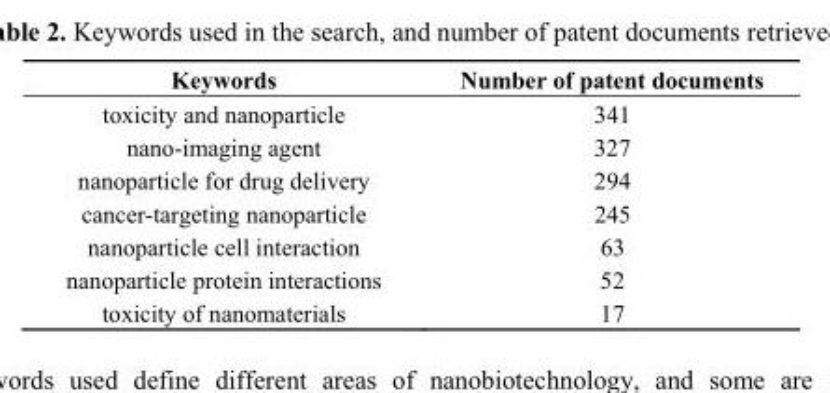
<table><thead><tr><td>Keywords</td><td>Number of patent documents</td></tr></thead><tbody><tr><td>toxicity and nanoparticle</td><td>341</td></tr><tr><td>nano-imaging agent</td><td>327</td></tr><tr><td>nanoparticle for drug delivery</td><td>294</td></tr><tr><td>cancer-targeting nanoparticle</td><td>245</td></tr><tr><td>nanoparticle cell interaction</td><td>63</td></tr><tr><td>nanoparticle protein interactions</td><td>52</td></tr><tr><td>toxicity of nanomaterials</td><td>17</td></tr></tbody></table>